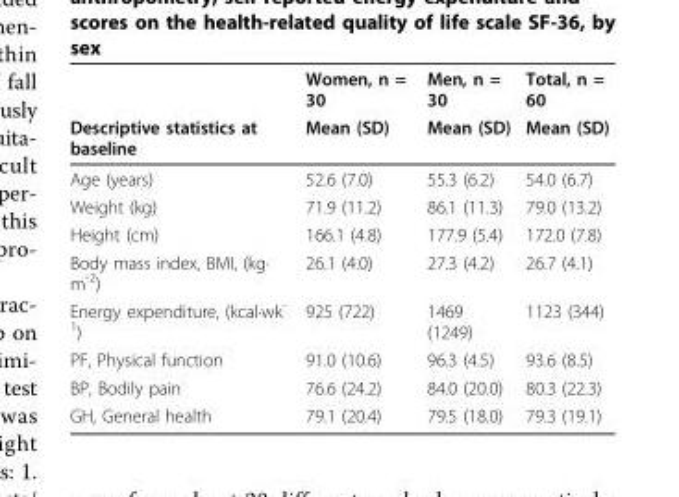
<table><thead><tr><td rowspan="2">Descriptive statistics at baseline</td><td rowspan="2">Women, n = 30 Mean (SD)</td><td rowspan="2">Men, n = 30 Mean (SD)</td><td rowspan="2">Total, n = 60 Mean (SD)</td></tr><tr></tr></thead><tbody><tr><td>Age (years)</td><td>52.6 (7.0)</td><td>55.3 (6.2)</td><td>54.0 (6.7)</td></tr><tr><td>Weight (kg)</td><td>71.9 (11.2)</td><td>86.1 (11.3)</td><td>79.0 (13.2)</td></tr><tr><td>Height (cm)</td><td>166.1 (4.8)</td><td>177.9 (5.4)</td><td>172.0 (7.8)</td></tr><tr><td>Body mass index, BMI, (kg· m<sup>-2</sup>)</td><td>26.1 (4.0)</td><td>27.3 (4.2)</td><td>26.7 (4.1)</td></tr><tr><td>Energy expenditure, (kcal·wk<sup>- 1</sup>)</td><td>925 (722)</td><td>1469 (1249)</td><td>1123 (344)</td></tr><tr><td>PF, Physical function</td><td>91.0 (10.6)</td><td>96.3 (4.5)</td><td>93.6 (8.5)</td></tr><tr><td>BP, Bodily pain</td><td>76.6 (24.2)</td><td>84.0 (20.0)</td><td>80.3 (22.3)</td></tr><tr><td>GH, General health</td><td>79.1 (20.4)</td><td>79.5 (18.0)</td><td>79.3 (19.1)</td></tr></tbody></table>